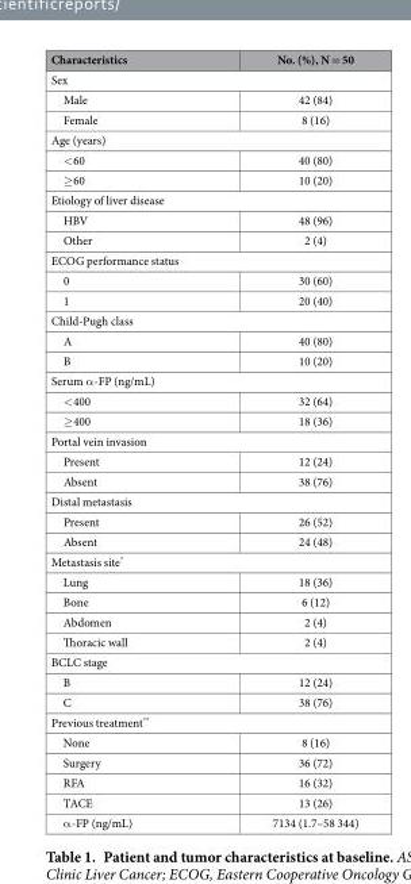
<table><thead><tr><td>Characteristics</td><td>No. (%), N = 50</td></tr></thead><tbody><tr><td colspan="2">Sex</td></tr><tr><td>Male</td><td>42 (84)</td></tr><tr><td>Female</td><td>8 (16)</td></tr><tr><td colspan="2">Age (years)</td></tr><tr><td>&lt; 60</td><td>40 (80)</td></tr><tr><td>≥ 60</td><td>10 (20)</td></tr><tr><td colspan="2">Etiology of liver disease</td></tr><tr><td>HBV</td><td>48 (96)</td></tr><tr><td>Other</td><td>2 (4)</td></tr><tr><td colspan="2">ECOG performance status</td></tr><tr><td>0</td><td>30 (60)</td></tr><tr><td>1</td><td>20 (40)</td></tr><tr><td colspan="2">Child-Pugh class</td></tr><tr><td>A</td><td>40 (80)</td></tr><tr><td>B</td><td>10 (20)</td></tr><tr><td colspan="2">Serum α -FP (ng/mL)</td></tr><tr><td>&lt; 400</td><td>32 (64)</td></tr><tr><td>≥ 400</td><td>18 (36)</td></tr><tr><td colspan="2">Portal vein invasion</td></tr><tr><td>Present</td><td>12 (24)</td></tr><tr><td>Absent</td><td>38 (76)</td></tr><tr><td colspan="2">Distal metastasis</td></tr><tr><td>Present</td><td>26 (52)</td></tr><tr><td>Absent</td><td>24 (48)</td></tr><tr><td colspan="2">Metastasis site*</td></tr><tr><td>Lung</td><td>18 (36)</td></tr><tr><td>Bone</td><td>6 (12)</td></tr><tr><td>Abdomen</td><td>2 (4)</td></tr><tr><td>Thoracic wall</td><td>2 (4)</td></tr><tr><td colspan="2">BCLC stage</td></tr><tr><td>B</td><td>12 (24)</td></tr><tr><td>C</td><td>38 (76)</td></tr><tr><td colspan="2">Previous treatment**</td></tr><tr><td>None</td><td>8 (16)</td></tr><tr><td>Surgery</td><td>36 (72)</td></tr><tr><td>RFA</td><td>16 (32)</td></tr><tr><td>TACE</td><td>13 (26)</td></tr><tr><td>α -FP (ng/mL)</td><td>7134 (1.7–58 344)</td></tr></tbody></table>